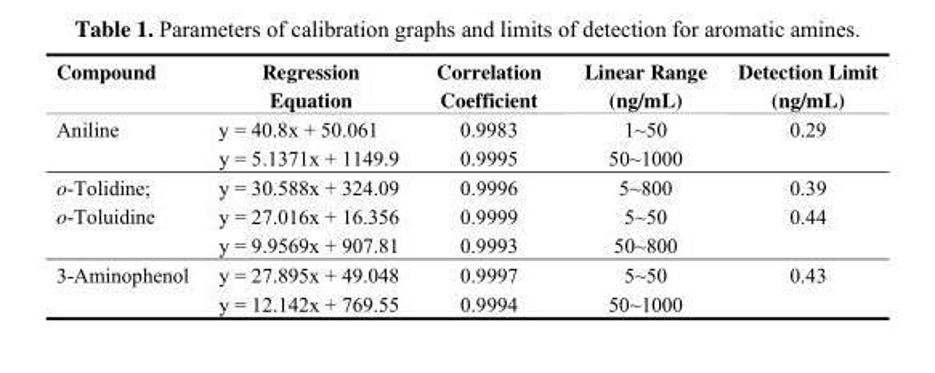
<table><thead><tr><td>Compound</td><td>Regression Equation</td><td>Correlation Coefficient</td><td>Linear Range (ng/mL)</td><td>Detection Limit (ng/mL)</td></tr></thead><tbody><tr><td rowspan="2">Aniline</td><td>y = 40.8x + 50.061</td><td>0.9983</td><td>1~50</td><td>0.29</td></tr><tr><td>y = 5.1371x + 1149.9</td><td>0.9995</td><td>50~1000</td><td></td></tr><tr><td rowspan="3">o-Tolidine; o-Toluidine</td><td>y = 30.588x + 324.09</td><td>0.9996</td><td>5~800</td><td>0.39</td></tr><tr><td>y = 27.016x + 16.356</td><td>0.9999</td><td>5~50</td><td>0.44</td></tr><tr><td>y = 9.9569x + 907.81</td><td>0.9993</td><td>50~800</td><td></td></tr><tr><td rowspan="2">3-Aminophenol</td><td>y = 27.895x + 49.048</td><td>0.9997</td><td>5~50</td><td>0.43</td></tr><tr><td>y = 12.142x + 769.55</td><td>0.9994</td><td>50~1000</td><td></td></tr></tbody></table>